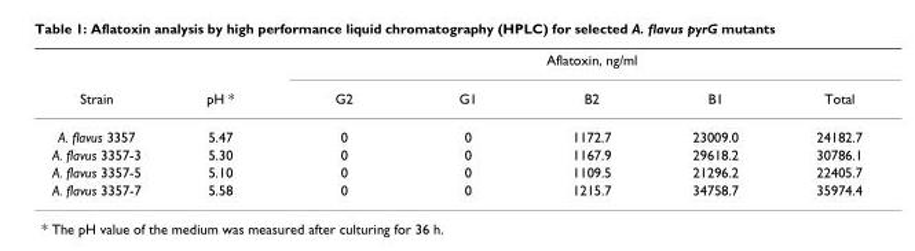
<table><thead><tr><td rowspan="2">Strain</td><td rowspan="2">pH *</td><td colspan="5">Aflatoxin, ng/ml</td></tr><tr><td>G2</td><td>G1</td><td>B2</td><td>B1</td><td>Total</td></tr></thead><tbody><tr><td>A. flavus 3357</td><td>5.47</td><td>0</td><td>0</td><td>1172.7</td><td>23009.0</td><td>24182.7</td></tr><tr><td>A. flavus 3357-3</td><td>5.30</td><td>0</td><td>0</td><td>1167.9</td><td>29618.2</td><td>30786.1</td></tr><tr><td>A. flavus 3357-5</td><td>5.10</td><td>0</td><td>0</td><td>1109.5</td><td>21296.2</td><td>22405.7</td></tr><tr><td>A. flavus 3357-7</td><td>5.58</td><td>0</td><td>0</td><td>1215.7</td><td>34758.7</td><td>35974.4</td></tr></tbody></table>